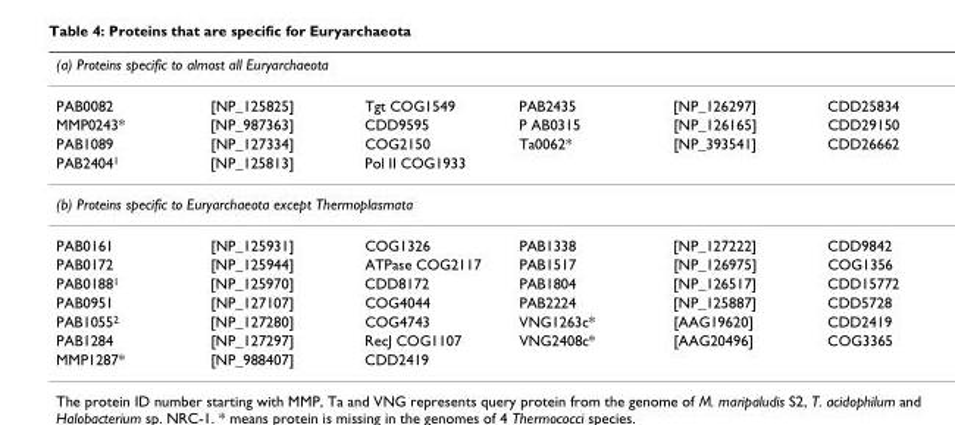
<table><thead><tr><td colspan="6">(a) Proteins specific to almost all Euryarchaeota</td></tr><tr><td>PAB0082</td><td>[NP_125825]</td><td>Tgt COG1549</td><td>PAB2435</td><td>[NP_126297]</td><td>CDD25834</td></tr></thead><tbody><tr><td>MMP0243*</td><td>[NP_987363]</td><td>CDD9595</td><td>P AB0315</td><td>[NP_126165]</td><td>CDD29150</td></tr><tr><td>PAB1089</td><td>[NP_127334]</td><td>COG2150</td><td>Ta0062*</td><td>[NP_393541]</td><td>CDD26662</td></tr><tr><td>PAB24041</td><td>[NP_125813]</td><td>Pol II COG1933</td><td></td><td></td><td></td></tr><tr><td colspan="6">(b) Proteins specific to Euryarchaeota except Thermoplasmata</td></tr><tr><td>PAB0161</td><td>[NP_125931]</td><td>COG1326</td><td>PAB1338</td><td>[NP_127222]</td><td>CDD9842</td></tr><tr><td>PAB0172</td><td>[NP_125944]</td><td>ATPase COG2117</td><td>PAB1517</td><td>[NP_126975]</td><td>COG1356</td></tr><tr><td>PAB01881</td><td>[NP_125970]</td><td>CDD8172</td><td>PAB1804</td><td>[NP_126517]</td><td>CDD15772</td></tr><tr><td>PAB0951</td><td>[NP_127107]</td><td>COG4044</td><td>PAB2224</td><td>[NP_125887]</td><td>CDD5728</td></tr><tr><td>PAB10552</td><td>[NP_127280]</td><td>COG4743</td><td>VNG1263c*</td><td>[AAG19620]</td><td>CDD2419</td></tr><tr><td>PAB1284</td><td>[NP_127297]</td><td>RecJ COG1107</td><td>VNG2408c*</td><td>[AAG20496]</td><td>COG3365</td></tr><tr><td>MMP1287*</td><td>[NP_988407]</td><td>CDD2419</td><td></td><td></td><td></td></tr></tbody></table>